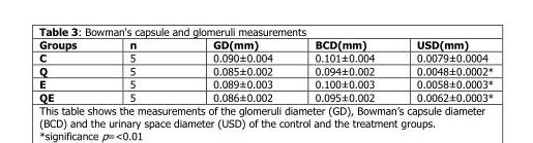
<table><thead><tr><td>Groups</td><td>n</td><td>GD(mm)</td><td>BCD(mm)</td><td>USD(mm)</td></tr></thead><tbody><tr><td>C</td><td>5</td><td>0.090±0.004</td><td>0.101±0.004</td><td>0.0079±0.0004</td></tr><tr><td>Q</td><td>5</td><td>0.085±0.002</td><td>0.094±0.002</td><td>0.0048±0.0002*</td></tr><tr><td>E</td><td>5</td><td>0.089±0.003</td><td>0.100±0.003</td><td>0.0058±0.0003*</td></tr><tr><td>QE</td><td>5</td><td>0.086±0.002</td><td>0.095±0.002</td><td>0.0062±0.0003*</td></tr></tbody></table>